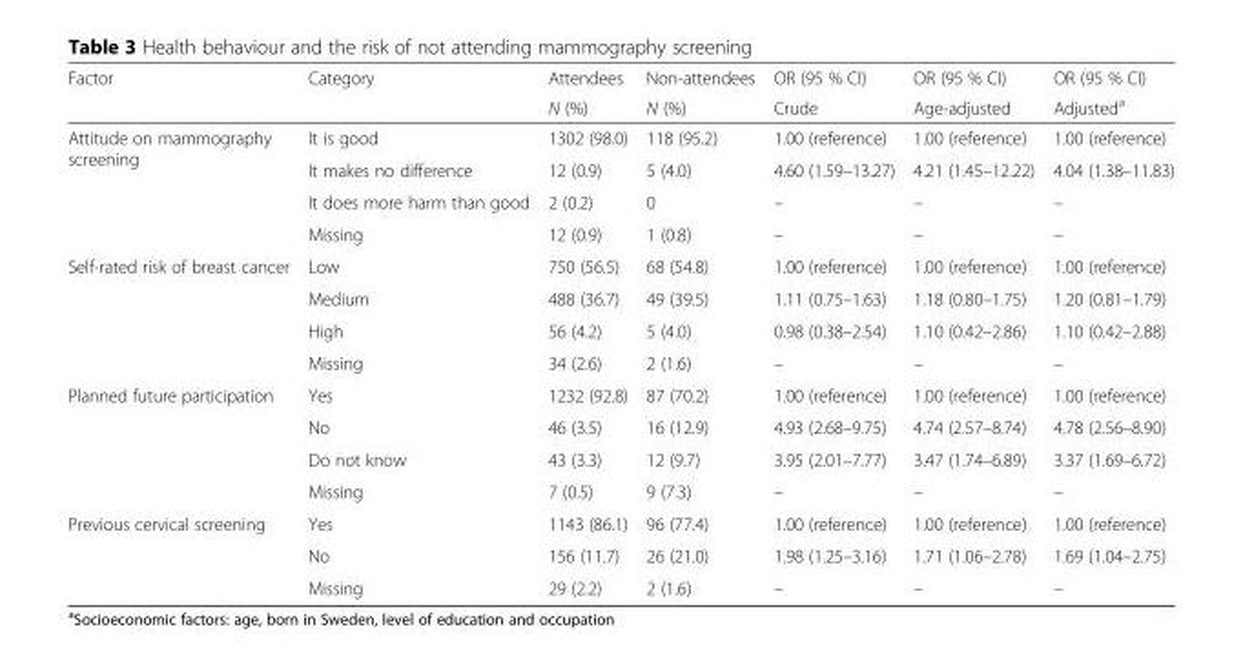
<table><thead><tr><td rowspan="2">Factor</td><td rowspan="2">Category</td><td rowspan="2">Attendees N (%)</td><td rowspan="2">Non-attendees N (%)</td><td rowspan="2">OR (95 % CI) Crude</td><td rowspan="2">OR (95 % CI) Age-adjusted</td><td rowspan="2">OR (95 % CI) Adjusted<sup>a</sup></td></tr><tr></tr></thead><tbody><tr><td rowspan="4">Attitude on mammography screening</td><td>It is good</td><td>1302 (98.0)</td><td>118 (95.2)</td><td>1.00 (reference)</td><td>1.00 (reference)</td><td>1.00 (reference)</td></tr><tr><td>It makes no difference</td><td>12 (0.9)</td><td>5 (4.0)</td><td>4.60 (1.59–13.27)</td><td>4.21 (1.45–12.22)</td><td>4.04 (1.38–11.83)</td></tr><tr><td>It does more harm than good</td><td>2 (0.2)</td><td>0</td><td>–</td><td>–</td><td>–</td></tr><tr><td>Missing</td><td>12 (0.9)</td><td>1 (0.8)</td><td>–</td><td>–</td><td>–</td></tr><tr><td rowspan="4">Self-rated risk of breast cancer</td><td>Low</td><td>750 (56.5)</td><td>68 (54.8)</td><td>1.00 (reference)</td><td>1.00 (reference)</td><td>1.00 (reference)</td></tr><tr><td>Medium</td><td>488 (36.7)</td><td>49 (39.5)</td><td>1.11 (0.75–1.63)</td><td>1.18 (0.80–1.75)</td><td>1.20 (0.81–1.79)</td></tr><tr><td>High</td><td>56 (4.2)</td><td>5 (4.0)</td><td>0.98 (0.38–2.54)</td><td>1.10 (0.42–2.86)</td><td>1.10 (0.42–2.88)</td></tr><tr><td>Missing</td><td>34 (2.6)</td><td>2 (1.6)</td><td>–</td><td>–</td><td>–</td></tr><tr><td rowspan="4">Planned future participation</td><td>Yes</td><td>1232 (92.8)</td><td>87 (70.2)</td><td>1.00 (reference)</td><td>1.00 (reference)</td><td>1.00 (reference)</td></tr><tr><td>No</td><td>46 (3.5)</td><td>16 (12.9)</td><td>4.93 (2.68–9.75)</td><td>4.74 (2.57–8.74)</td><td>4.78 (2.56–8.90)</td></tr><tr><td>Do not know</td><td>43 (3.3)</td><td>12 (9.7)</td><td>3.95 (2.01–7.77)</td><td>3.47 (1.74–6.89)</td><td>3.37 (1.69–6.72)</td></tr><tr><td>Missing</td><td>7 (0.5)</td><td>9 (7.3)</td><td>–</td><td>–</td><td>–</td></tr><tr><td rowspan="3">Previous cervical screening</td><td>Yes</td><td>1143 (86.1)</td><td>96 (77.4)</td><td>1.00 (reference)</td><td>1.00 (reference)</td><td>1.00 (reference)</td></tr><tr><td>No</td><td>156 (11.7)</td><td>26 (21.0)</td><td>1.98 (1.25–3.16)</td><td>1.71 (1.06–2.78)</td><td>1.69 (1.04–2.75)</td></tr><tr><td>Missing</td><td>29 (2.2)</td><td>2 (1.6)</td><td>–</td><td>–</td><td>–</td></tr></tbody></table>